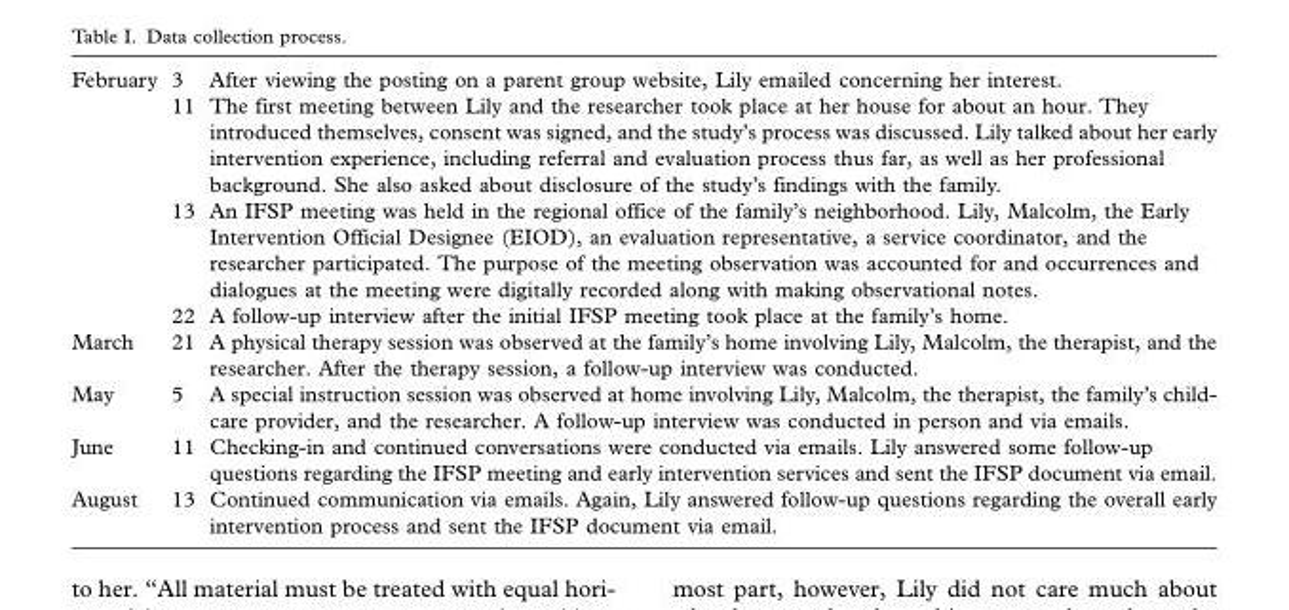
<table><tbody><tr><td rowspan="4">February</td><td>3</td><td>After viewing the posting on a parent group website, Lily emailed concerning her interest.</td></tr><tr><td>11</td><td>The first meeting between Lily and the researcher took place at her house for about an hour. They introduced themselves, consent was signed, and the study’s process was discussed. Lily talked about her early intervention experience, including referral and evaluation process thus far, as well as her professional background. She also asked about disclosure of the study’s findings with the family.</td></tr><tr><td>13</td><td>An IFSP meeting was held in the regional office of the family’s neighborhood. Lily, Malcolm, the Early Intervention Official Designee (EIOD), an evaluation representative, a service coordinator, and the researcher participated. The purpose of the meeting observation was accounted for and occurrences and dialogues at the meeting were digitally recorded along with making observational notes.</td></tr><tr><td>22</td><td>A follow-up interview after the initial IFSP meeting took place at the family’s home.</td></tr><tr><td>March</td><td>21</td><td>A physical therapy session was observed at the family’s home involving Lily, Malcolm, the therapist, and the researcher. After the therapy session, a follow-up interview was conducted.</td></tr><tr><td>May</td><td>5</td><td>A special instruction session was observed at home involving Lily, Malcolm, the therapist, the family’s child- care provider, and the researcher. A follow-up interview was conducted in person and via emails.</td></tr><tr><td>June</td><td>11</td><td>Checking-in and continued conversations were conducted via emails. Lily answered some follow-up questions regarding the IFSP meeting and early intervention services and sent the IFSP document via email.</td></tr><tr><td>August</td><td>13</td><td>Continued communication via emails. Again, Lily answered follow-up questions regarding the overall early intervention process and sent the IFSP document via email.</td></tr></tbody></table>